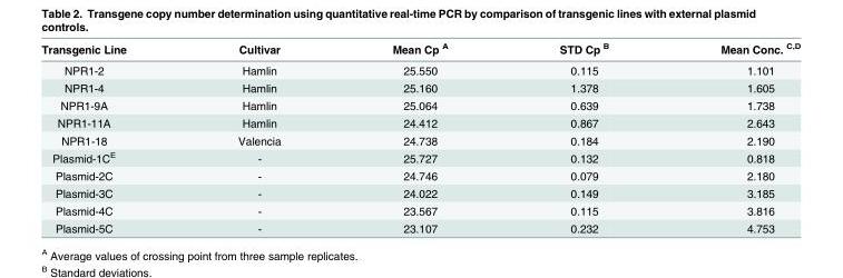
<table><thead><tr><td>Transgenic Line</td><td>Cultivar</td><td>Mean Cp <sup>A</sup></td><td>STD Cp <sup>B</sup></td><td>Mean Conc. <sup>C,D</sup></td></tr></thead><tbody><tr><td>NPR1-2</td><td>Hamlin</td><td>25.550</td><td>0.115</td><td>1.101</td></tr><tr><td>NPR1-4</td><td>Hamlin</td><td>25.160</td><td>1.378</td><td>1.605</td></tr><tr><td>NPR1-9A</td><td>Hamlin</td><td>25.064</td><td>0.639</td><td>1.738</td></tr><tr><td>NPR1-11A</td><td>Hamlin</td><td>24.412</td><td>0.867</td><td>2.643</td></tr><tr><td>NPR1-18</td><td>Valencia</td><td>24.738</td><td>0.184</td><td>2.190</td></tr><tr><td>Plasmid-1C<sup>E</sup></td><td>-</td><td>25.727</td><td>0.132</td><td>0.818</td></tr><tr><td>Plasmid-2C</td><td>-</td><td>24.746</td><td>0.079</td><td>2.180</td></tr><tr><td>Plasmid-3C</td><td>-</td><td>24.022</td><td>0.149</td><td>3.185</td></tr><tr><td>Plasmid-4C</td><td>-</td><td>23.567</td><td>0.115</td><td>3.816</td></tr><tr><td>Plasmid-5C</td><td>-</td><td>23.107</td><td>0.232</td><td>4.753</td></tr></tbody></table>